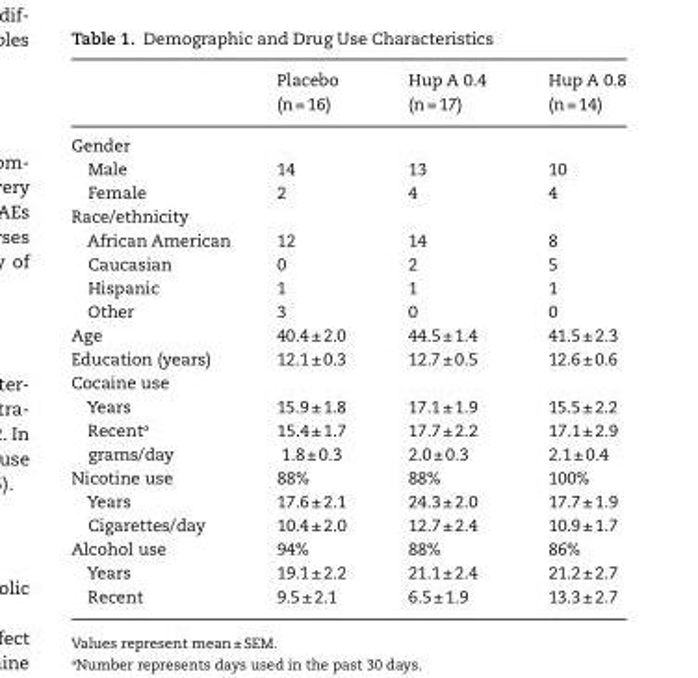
<table><thead><tr><td></td><td>Placebo (n = 16)</td><td>Hup A 0.4 (n = 17)</td><td>Hup A 0.8 (n = 14)</td></tr></thead><tbody><tr><td colspan="4">Gender</td></tr><tr><td>Male</td><td>14</td><td>13</td><td>10</td></tr><tr><td>Female</td><td>2</td><td>4</td><td>4</td></tr><tr><td colspan="4">Race/ethnicity</td></tr><tr><td>African American</td><td>12</td><td>14</td><td>8</td></tr><tr><td>Caucasian</td><td>0</td><td>2</td><td>5</td></tr><tr><td>Hispanic</td><td>1</td><td>1</td><td>1</td></tr><tr><td>Other</td><td>3</td><td>0</td><td>0</td></tr><tr><td>Age</td><td>40.4 ± 2.0</td><td>44.5 ± 1.4</td><td>41.5 ± 2.3</td></tr><tr><td>Education (years)</td><td>12.1 ± 0.3</td><td>12.7 ± 0.5</td><td>12.6 ± 0.6</td></tr><tr><td colspan="4">Cocaine use</td></tr><tr><td>Years</td><td>15.9 ± 1.8</td><td>17.1 ± 1.9</td><td>15.5 ± 2.2</td></tr><tr><td>Recent<sup>a</sup></td><td>15.4 ± 1.7</td><td>17.7 ± 2.2</td><td>17.1 ± 2.9</td></tr><tr><td>grams/day</td><td>1.8 ± 0.3</td><td>2.0 ± 0.3</td><td>2.1 ± 0.4</td></tr><tr><td>Nicotine use</td><td>88%</td><td>88%</td><td>100%</td></tr><tr><td>Years</td><td>17.6 ± 2.1</td><td>24.3 ± 2.0</td><td>17.7 ± 1.9</td></tr><tr><td>Cigarettes/day</td><td>10.4 ± 2.0</td><td>12.7 ± 2.4</td><td>10.9 ± 1.7</td></tr><tr><td>Alcohol use</td><td>94%</td><td>88%</td><td>86%</td></tr><tr><td>Years</td><td>19.1 ± 2.2</td><td>21.1 ± 2.4</td><td>21.2 ± 2.7</td></tr><tr><td>Recent</td><td>9.5 ± 2.1</td><td>6.5 ± 1.9</td><td>13.3 ± 2.7</td></tr></tbody></table>